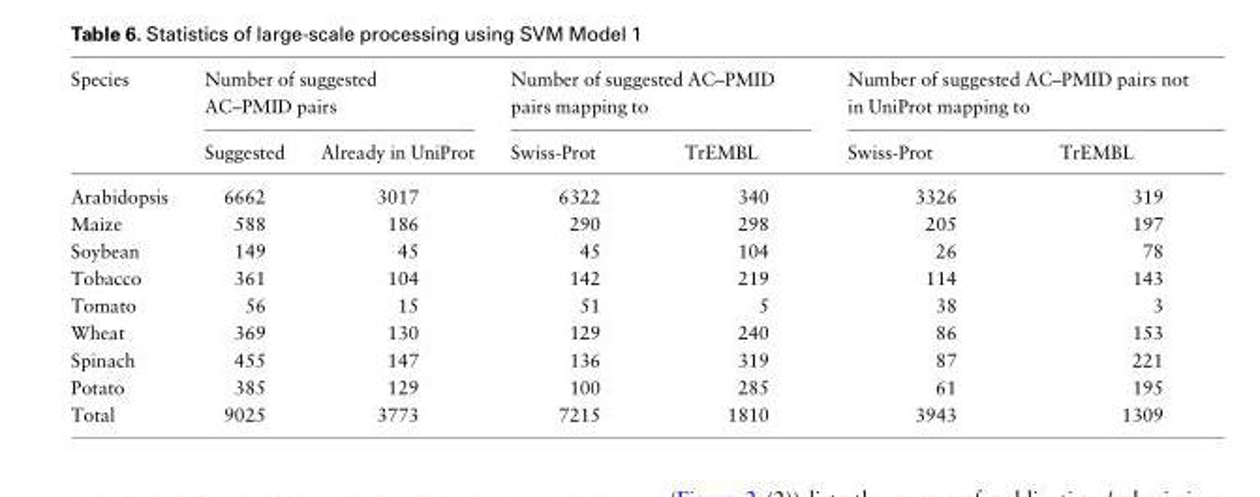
<table><thead><tr><td rowspan="2">Species</td><td colspan="2">Number of suggested AC–PMID pairs</td><td colspan="2">Number of suggested AC–PMID pairs mapping to</td><td colspan="2">Number of suggested AC–PMID pairs not in UniProt mapping to</td></tr><tr><td>Suggested</td><td>Already in UniProt</td><td>Swiss-Prot</td><td>TrEMBL</td><td>Swiss-Prot</td><td>TrEMBL</td></tr></thead><tbody><tr><td>Arabidopsis</td><td>6662</td><td>3017</td><td>6322</td><td>340</td><td>3326</td><td>319</td></tr><tr><td>Maize</td><td>588</td><td>186</td><td>290</td><td>298</td><td>205</td><td>197</td></tr><tr><td>Soybean</td><td>149</td><td>45</td><td>45</td><td>104</td><td>26</td><td>78</td></tr><tr><td>Tobacco</td><td>361</td><td>104</td><td>142</td><td>219</td><td>114</td><td>143</td></tr><tr><td>Tomato</td><td>56</td><td>15</td><td>51</td><td>5</td><td>38</td><td>3</td></tr><tr><td>Wheat</td><td>369</td><td>130</td><td>129</td><td>240</td><td>86</td><td>153</td></tr><tr><td>Spinach</td><td>455</td><td>147</td><td>136</td><td>319</td><td>87</td><td>221</td></tr><tr><td>Potato</td><td>385</td><td>129</td><td>100</td><td>285</td><td>61</td><td>195</td></tr><tr><td>Total</td><td>9025</td><td>3773</td><td>7215</td><td>1810</td><td>3943</td><td>1309</td></tr></tbody></table>